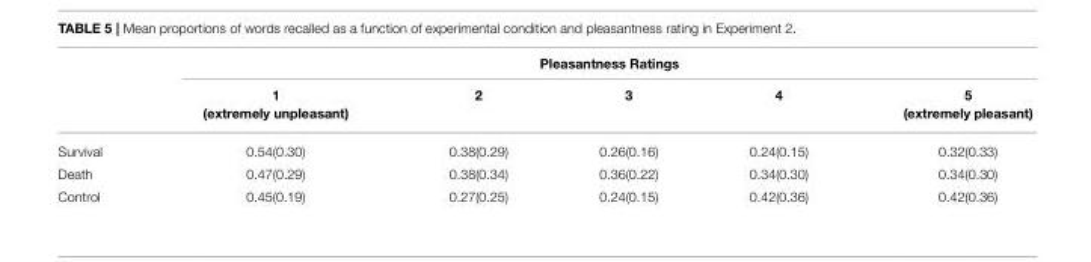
<table><thead><tr><td rowspan="2"></td><td colspan="5">Pleasantness Ratings</td></tr><tr><td>1 (extremely unpleasant)</td><td>2</td><td>3</td><td>4</td><td>5 (extremely pleasant)</td></tr></thead><tbody><tr><td>Survival</td><td>0.54(0.30)</td><td>0.38(0.29)</td><td>0.26(0.16)</td><td>0.24(0.15)</td><td>0.32(0.33)</td></tr><tr><td>Death</td><td>0.47(0.29)</td><td>0.38(0.34)</td><td>0.36(0.22)</td><td>0.34(0.30)</td><td>0.34(0.30)</td></tr><tr><td>Control</td><td>0.45(0.19)</td><td>0.27(0.25)</td><td>0.24(0.15)</td><td>0.42(0.36)</td><td>0.42(0.36)</td></tr></tbody></table>